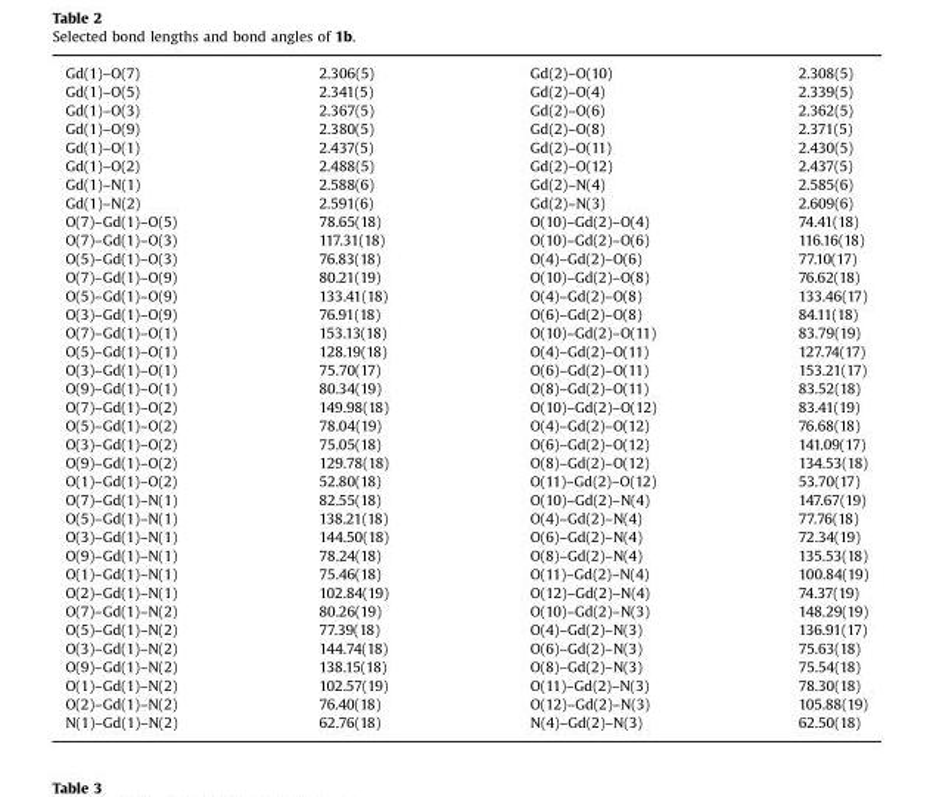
<table><tbody><tr><td>Gd(1)–O(7)</td><td>2.306(5)</td><td>Gd(2)–O(10)</td><td>2.308(5)</td></tr><tr><td>Gd(1)–O(5)</td><td>2.341(5)</td><td>Gd(2)–O(4)</td><td>2.339(5)</td></tr><tr><td>Gd(1)–O(3)</td><td>2.367(5)</td><td>Gd(2)–O(6)</td><td>2.362(5)</td></tr><tr><td>Gd(1)–O(9)</td><td>2.380(5)</td><td>Gd(2)–O(8)</td><td>2.371(5)</td></tr><tr><td>Gd(1)–O(1)</td><td>2.437(5)</td><td>Gd(2)–O(11)</td><td>2.430(5)</td></tr><tr><td>Gd(1)–O(2)</td><td>2.488(5)</td><td>Gd(2)–O(12)</td><td>2.437(5)</td></tr><tr><td>Gd(1)–N(1)</td><td>2.588(6)</td><td>Gd(2)–N(4)</td><td>2.585(6)</td></tr><tr><td>Gd(1)–N(2)</td><td>2.591(6)</td><td>Gd(2)–N(3)</td><td>2.609(6)</td></tr><tr><td>O(7)–Gd(1)–O(5)</td><td>78.65(18)</td><td>O(10)–Gd(2)–O(4)</td><td>74.41(18)</td></tr><tr><td>O(7)–Gd(1)–O(3)</td><td>117.31(18)</td><td>O(10)–Gd(2)–O(6)</td><td>116.16(18)</td></tr><tr><td>O(5)–Gd(1)–O(3)</td><td>76.83(18)</td><td>O(4)–Gd(2)–O(6)</td><td>77.10(17)</td></tr><tr><td>O(7)–Gd(1)–O(9)</td><td>80.21(19)</td><td>O(10)–Gd(2)–O(8)</td><td>76.62(18)</td></tr><tr><td>O(5)–Gd(1)–O(9)</td><td>133.41(18)</td><td>O(4)–Gd(2)–O(8)</td><td>133.46(17)</td></tr><tr><td>O(3)–Gd(1)–O(9)</td><td>76.91(18)</td><td>O(6)–Gd(2)–O(8)</td><td>84.11(18)</td></tr><tr><td>O(7)–Gd(1)–O(1)</td><td>153.13(18)</td><td>O(10)–Gd(2)–O(11)</td><td>83.79(19)</td></tr><tr><td>O(5)–Gd(1)–O(1)</td><td>128.19(18)</td><td>O(4)–Gd(2)–O(11)</td><td>127.74(17)</td></tr><tr><td>O(3)–Gd(1)–O(1)</td><td>75.70(17)</td><td>O(6)–Gd(2)–O(11)</td><td>153.21(17)</td></tr><tr><td>O(9)–Gd(1)–O(1)</td><td>80.34(19)</td><td>O(8)–Gd(2)–O(11)</td><td>83.52(18)</td></tr><tr><td>O(7)–Gd(1)–O(2)</td><td>149.98(18)</td><td>O(10)–Gd(2)–O(12)</td><td>83.41(19)</td></tr><tr><td>O(5)–Gd(1)–O(2)</td><td>78.04(19)</td><td>O(4)–Gd(2)–O(12)</td><td>76.68(18)</td></tr><tr><td>O(3)–Gd(1)–O(2)</td><td>75.05(18)</td><td>O(6)–Gd(2)–O(12)</td><td>141.09(17)</td></tr><tr><td>O(9)–Gd(1)–O(2)</td><td>129.78(18)</td><td>O(8)–Gd(2)–O(12)</td><td>134.53(18)</td></tr><tr><td>O(1)–Gd(1)–O(2)</td><td>52.80(18)</td><td>O(11)–Gd(2)–O(12)</td><td>53.70(17)</td></tr><tr><td>O(7)–Gd(1)–N(1)</td><td>82.55(18)</td><td>O(10)–Gd(2)–N(4)</td><td>147.67(19)</td></tr><tr><td>O(5)–Gd(1)–N(1)</td><td>138.21(18)</td><td>O(4)–Gd(2)–N(4)</td><td>77.76(18)</td></tr><tr><td>O(3)–Gd(1)–N(1)</td><td>144.50(18)</td><td>O(6)–Gd(2)–N(4)</td><td>72.34(19)</td></tr><tr><td>O(9)–Gd(1)–N(1)</td><td>78.24(18)</td><td>O(8)–Gd(2)–N(4)</td><td>135.53(18)</td></tr><tr><td>O(1)–Gd(1)–N(1)</td><td>75.46(18)</td><td>O(11)–Gd(2)–N(4)</td><td>100.84(19)</td></tr><tr><td>O(2)–Gd(1)–N(1)</td><td>102.84(19)</td><td>O(12)–Gd(2)–N(4)</td><td>74.37(19)</td></tr><tr><td>O(7)–Gd(1)–N(2)</td><td>80.26(19)</td><td>O(10)–Gd(2)–N(3)</td><td>148.29(19)</td></tr><tr><td>O(5)–Gd(1)–N(2)</td><td>77.39(18)</td><td>O(4)–Gd(2)–N(3)</td><td>136.91(17)</td></tr><tr><td>O(3)–Gd(1)–N(2)</td><td>144.74(18)</td><td>O(6)–Gd(2)–N(3)</td><td>75.63(18)</td></tr><tr><td>O(9)–Gd(1)–N(2)</td><td>138.15(18)</td><td>O(8)–Gd(2)–N(3)</td><td>75.54(18)</td></tr><tr><td>O(1)–Gd(1)–N(2)</td><td>102.57(19)</td><td>O(11)–Gd(2)–N(3)</td><td>78.30(18)</td></tr><tr><td>O(2)–Gd(1)–N(2)</td><td>76.40(18)</td><td>O(12)–Gd(2)–N(3)</td><td>105.88(19)</td></tr><tr><td>N(1)–Gd(1)–N(2)</td><td>62.76(18)</td><td>N(4)–Gd(2)–N(3)</td><td>62.50(18)</td></tr></tbody></table>